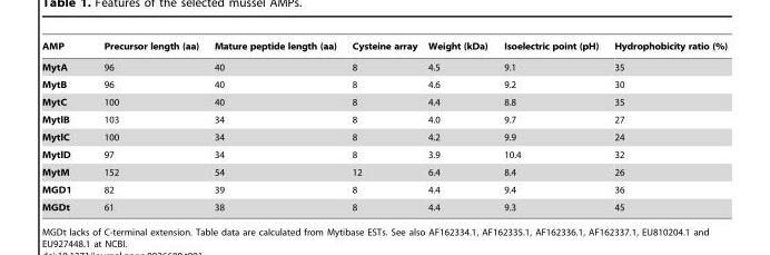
<table><thead><tr><td>AMP</td><td>Precursor length (aa)</td><td>Mature peptide length (aa)</td><td>Cysteine array</td><td>Weight (kDa)</td><td>Isoelectric point (pH)</td><td>Hydrophobicity ratio (%)</td></tr></thead><tbody><tr><td>MytA</td><td>96</td><td>40</td><td>8</td><td>4.5</td><td>9.1</td><td>35</td></tr><tr><td>MytB</td><td>96</td><td>40</td><td>8</td><td>4.6</td><td>9.2</td><td>30</td></tr><tr><td>MytC</td><td>100</td><td>40</td><td>8</td><td>4.4</td><td>8.8</td><td>35</td></tr><tr><td>MytlB</td><td>103</td><td>34</td><td>8</td><td>4.0</td><td>9.7</td><td>27</td></tr><tr><td>MytlC</td><td>100</td><td>34</td><td>8</td><td>4.2</td><td>9.9</td><td>24</td></tr><tr><td>MytlD</td><td>97</td><td>34</td><td>8</td><td>3.9</td><td>10.4</td><td>32</td></tr><tr><td>MytM</td><td>152</td><td>54</td><td>12</td><td>6.4</td><td>8.4</td><td>26</td></tr><tr><td>MGD1</td><td>82</td><td>39</td><td>8</td><td>4.4</td><td>9.4</td><td>36</td></tr><tr><td>MGDt</td><td>61</td><td>38</td><td>8</td><td>4.4</td><td>9.3</td><td>45</td></tr></tbody></table>